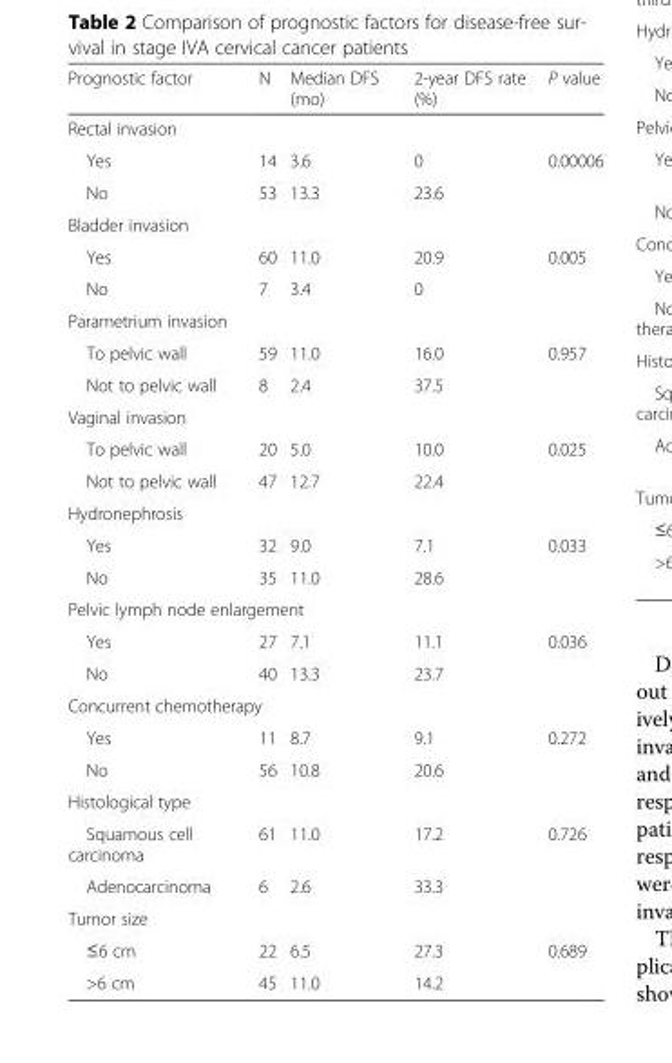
<table><thead><tr><td>Prognostic factor</td><td>N</td><td>Median DFS (mo)</td><td>2-year DFS rate (%)</td><td>P value</td></tr></thead><tbody><tr><td colspan="5">Rectal invasion</td></tr><tr><td>Yes</td><td>14</td><td>3.6</td><td>0</td><td>0.00006</td></tr><tr><td>No</td><td>53</td><td>13.3</td><td>23.6</td><td></td></tr><tr><td colspan="5">Bladder invasion</td></tr><tr><td>Yes</td><td>60</td><td>11.0</td><td>20.9</td><td>0.005</td></tr><tr><td>No</td><td>7</td><td>3.4</td><td>0</td><td></td></tr><tr><td colspan="5">Parametrium invasion</td></tr><tr><td>To pelvic wall</td><td>59</td><td>11.0</td><td>16.0</td><td>0.957</td></tr><tr><td>Not to pelvic wall</td><td>8</td><td>2.4</td><td>37.5</td><td></td></tr><tr><td colspan="5">Vaginal invasion</td></tr><tr><td>To pelvic wall</td><td>20</td><td>5.0</td><td>10.0</td><td>0.025</td></tr><tr><td>Not to pelvic wall</td><td>47</td><td>12.7</td><td>22.4</td><td></td></tr><tr><td colspan="5">Hydronephrosis</td></tr><tr><td>Yes</td><td>32</td><td>9.0</td><td>7.1</td><td>0.033</td></tr><tr><td>No</td><td>35</td><td>11.0</td><td>28.6</td><td></td></tr><tr><td colspan="5">Pelvic lymph node enlargement</td></tr><tr><td>Yes</td><td>27</td><td>7.1</td><td>11.1</td><td>0.036</td></tr><tr><td>No</td><td>40</td><td>13.3</td><td>23.7</td><td></td></tr><tr><td colspan="5">Concurrent chemotherapy</td></tr><tr><td>Yes</td><td>11</td><td>8.7</td><td>9.1</td><td>0.272</td></tr><tr><td>No</td><td>56</td><td>10.8</td><td>20.6</td><td></td></tr><tr><td colspan="5">Histological type</td></tr><tr><td>Squamous cell carcinoma</td><td>61</td><td>11.0</td><td>17.2</td><td>0.726</td></tr><tr><td>Adenocarcinoma</td><td>6</td><td>2.6</td><td>33.3</td><td></td></tr><tr><td colspan="5">Tumor size</td></tr><tr><td>≤6 cm</td><td>22</td><td>6.5</td><td>27.3</td><td>0.689</td></tr><tr><td>&gt;6 cm</td><td>45</td><td>11.0</td><td>14.2</td><td></td></tr></tbody></table>